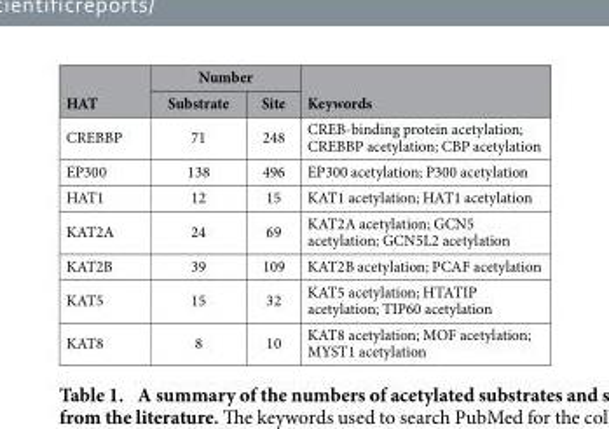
<table><thead><tr><td rowspan="2">HAT</td><td colspan="2">Number</td><td rowspan="2">Keywords</td></tr><tr><td>Substrate</td><td>Site</td></tr></thead><tbody><tr><td>CREBBP</td><td>71</td><td>248</td><td>CREB-binding protein acetylation; CREBBP acetylation; CBP acetylation</td></tr><tr><td>EP300</td><td>138</td><td>496</td><td>EP300 acetylation; P300 acetylation</td></tr><tr><td>HAT1</td><td>12</td><td>15</td><td>KAT1 acetylation; HAT1 acetylation</td></tr><tr><td>KAT2A</td><td>24</td><td>69</td><td>KAT2A acetylation; GCN5 acetylation; GCN5L2 acetylation</td></tr><tr><td>KAT2B</td><td>39</td><td>109</td><td>KAT2B acetylation; PCAF acetylation</td></tr><tr><td>KAT5</td><td>15</td><td>32</td><td>KAT5 acetylation; HTATIP acetylation; TIP60 acetylation</td></tr><tr><td>KAT8</td><td>8</td><td>10</td><td>KAT8 acetylation; MOF acetylation; MYST1 acetylation</td></tr></tbody></table>